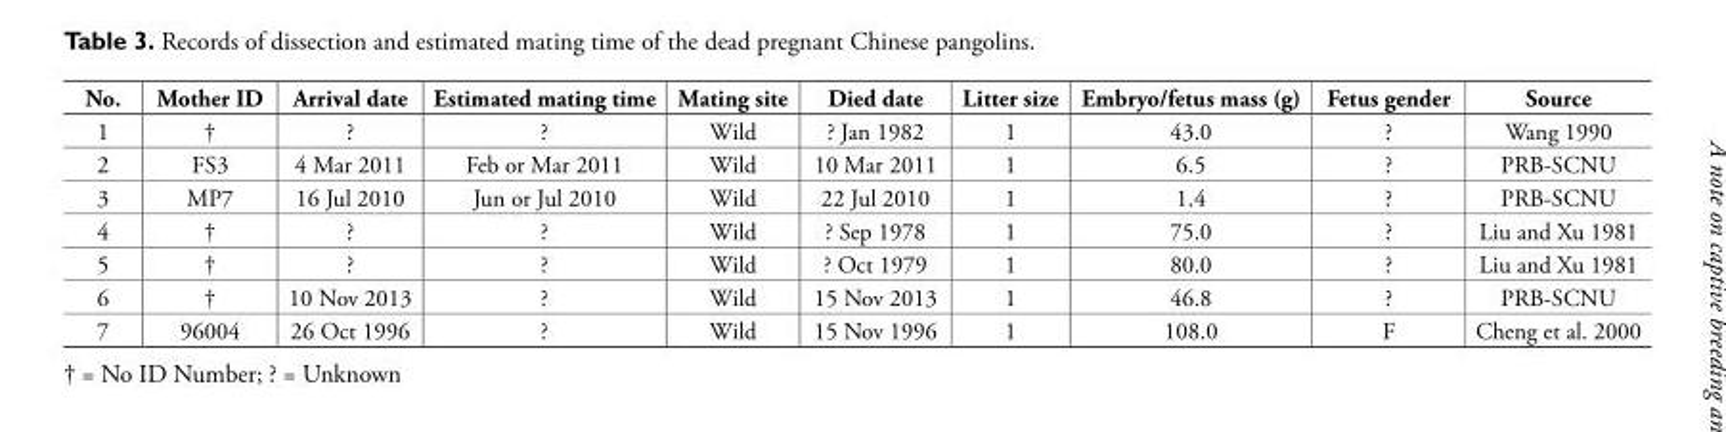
<table><thead><tr><td>No.</td><td>Mother ID</td><td>Arrival date</td><td>Estimated mating time</td><td>Mating site</td><td>Died date</td><td>Litter size</td><td>Embryo/fetus mass (g)</td><td>Fetus gender</td><td>Source</td></tr></thead><tbody><tr><td>1</td><td>†</td><td>?</td><td>?</td><td>Wild</td><td>? Jan 1982</td><td>1</td><td>43.0</td><td>?</td><td>Wang 1990</td></tr><tr><td>2</td><td>FS3</td><td>4 Mar 2011</td><td>Feb or Mar 2011</td><td>Wild</td><td>10 Mar 2011</td><td>1</td><td>6.5</td><td>?</td><td>PRB-SCNU</td></tr><tr><td>3</td><td>MP7</td><td>16 Jul 2010</td><td>Jun or Jul 2010</td><td>Wild</td><td>22 Jul 2010</td><td>1</td><td>1.4</td><td>?</td><td>PRB-SCNU</td></tr><tr><td>4</td><td>†</td><td>?</td><td>?</td><td>Wild</td><td>? Sep 1978</td><td>1</td><td>75.0</td><td>?</td><td>Liu and Xu 1981</td></tr><tr><td>5</td><td>†</td><td>?</td><td>?</td><td>Wild</td><td>? Oct 1979</td><td>1</td><td>80.0</td><td>?</td><td>Liu and Xu 1981</td></tr><tr><td>6</td><td>†</td><td>10 Nov 2013</td><td>?</td><td>Wild</td><td>15 Nov 2013</td><td>1</td><td>46.8</td><td>?</td><td>PRB-SCNU</td></tr><tr><td>7</td><td>96004</td><td>26 Oct 1996</td><td>?</td><td>Wild</td><td>15 Nov 1996</td><td>1</td><td>108.0</td><td>F</td><td>Cheng et al. 2000</td></tr></tbody></table>